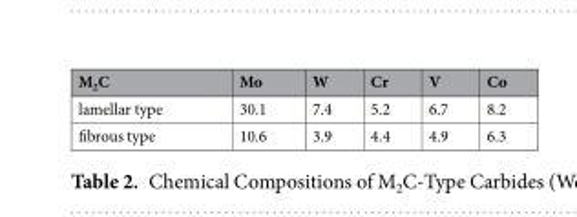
<table><thead><tr><td>M<sub>2</sub>C</td><td>Mo</td><td>W</td><td>Cr</td><td>V</td><td>Co</td></tr></thead><tbody><tr><td>lamellar type</td><td>30.1</td><td>7.4</td><td>5.2</td><td>6.7</td><td>8.2</td></tr><tr><td>fibrous type</td><td>10.6</td><td>3.9</td><td>4.4</td><td>4.9</td><td>6.3</td></tr></tbody></table>